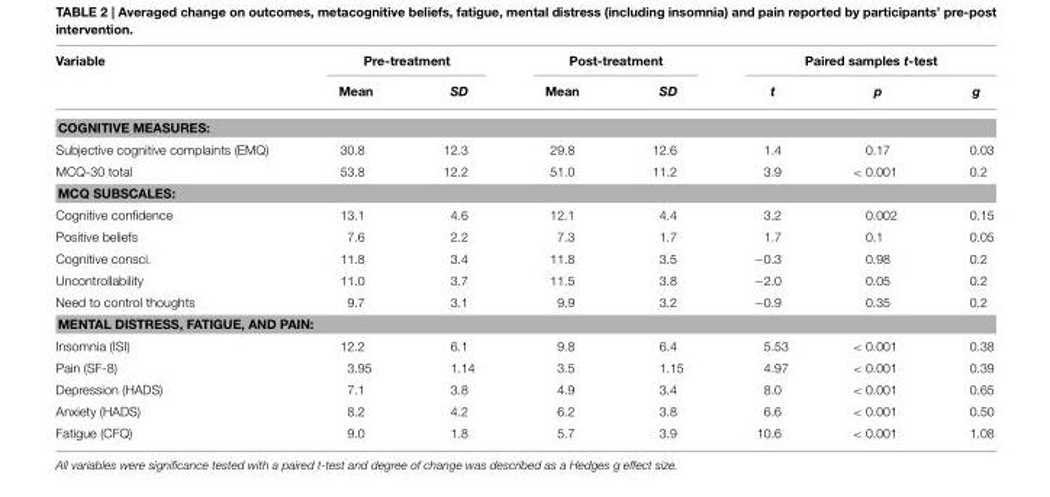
<table><thead><tr><td rowspan="2">Variable</td><td colspan="2">Pre-treatment</td><td colspan="2">Post-treatment</td><td colspan="3">Paired samples t-test</td></tr><tr><td>Mean</td><td>SD</td><td>Mean</td><td>SD</td><td>t</td><td>p</td><td>g</td></tr></thead><tbody><tr><td colspan="8">COGNITIVE MEASURES:</td></tr><tr><td>Subjective cognitive complaints (EMQ)</td><td>30.8</td><td>12.3</td><td>29.8</td><td>12.6</td><td>1.4</td><td>0.17</td><td>0.03</td></tr><tr><td>MCQ-30 total</td><td>53.8</td><td>12.2</td><td>51.0</td><td>11.2</td><td>3.9</td><td>&lt; 0.001</td><td>0.2</td></tr><tr><td colspan="8">MCQ SUBSCALES:</td></tr><tr><td>Cognitive confidence</td><td>13.1</td><td>4.6</td><td>12.1</td><td>4.4</td><td>3.2</td><td>0.002</td><td>0.15</td></tr><tr><td>Positive beliefs</td><td>7.6</td><td>2.2</td><td>7.3</td><td>1.7</td><td>1.7</td><td>0.1</td><td>0.05</td></tr><tr><td>Cognitive consci.</td><td>11.8</td><td>3.4</td><td>11.8</td><td>3.5</td><td>−0.3</td><td>0.98</td><td>0.2</td></tr><tr><td>Uncontrollability</td><td>11.0</td><td>3.7</td><td>11.5</td><td>3.8</td><td>−2.0</td><td>0.05</td><td>0.2</td></tr><tr><td>Need to control thoughts</td><td>9.7</td><td>3.1</td><td>9.9</td><td>3.2</td><td>−0.9</td><td>0.35</td><td>0.2</td></tr><tr><td colspan="8">MENTAL DISTRESS, FATIGUE, AND PAIN:</td></tr><tr><td>Insomnia (ISI)</td><td>12.2</td><td>6.1</td><td>9.8</td><td>6.4</td><td>5.53</td><td>&lt; 0.001</td><td>0.38</td></tr><tr><td>Pain (SF-8)</td><td>3.95</td><td>1.14</td><td>3.5</td><td>1.15</td><td>4.97</td><td>&lt; 0.001</td><td>0.39</td></tr><tr><td>Depression (HADS)</td><td>7.1</td><td>3.8</td><td>4.9</td><td>3.4</td><td>8.0</td><td>&lt; 0.001</td><td>0.65</td></tr><tr><td>Anxiety (HADS)</td><td>8.2</td><td>4.2</td><td>6.2</td><td>3.8</td><td>6.6</td><td>&lt; 0.001</td><td>0.50</td></tr><tr><td>Fatigue (CFQ)</td><td>9.0</td><td>1.8</td><td>5.7</td><td>3.9</td><td>10.6</td><td>&lt; 0.001</td><td>1.08</td></tr></tbody></table>